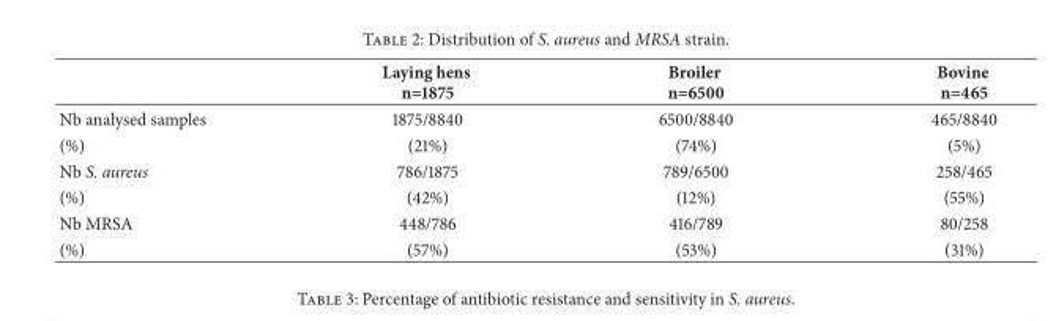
<table><thead><tr><td></td><td>Laying hens n=1875</td><td>Broiler n=6500</td><td>Bovine n=465</td></tr></thead><tbody><tr><td>Nb analysed samples</td><td>1875/8840</td><td>6500/8840</td><td>465/8840</td></tr><tr><td>(%)</td><td>(21%)</td><td>(74%)</td><td>(5%)</td></tr><tr><td>Nb S. aureus</td><td>786/1875</td><td>789/6500</td><td>258/465</td></tr><tr><td>(%)</td><td>(42%)</td><td>(12%)</td><td>(55%)</td></tr><tr><td>Nb MRSA</td><td>448/786</td><td>416/789</td><td>80/258</td></tr><tr><td>(%)</td><td>(57%)</td><td>(53%)</td><td>(31%)</td></tr></tbody></table>